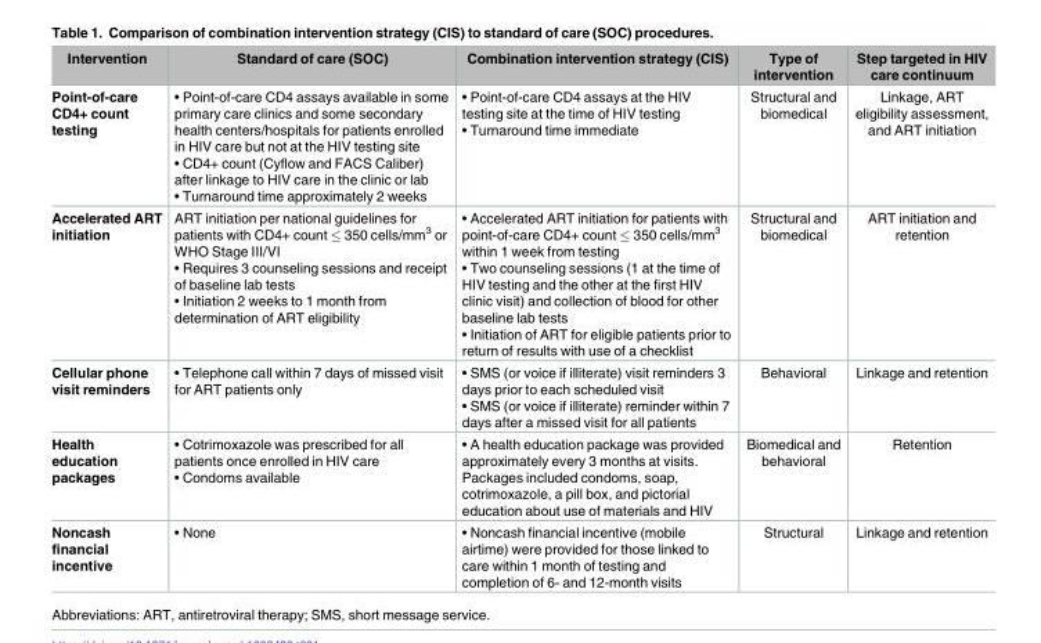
<table><thead><tr><td>Intervention</td><td>Standard of care (SOC)</td><td>Combination intervention strategy (CIS)</td><td>Type of intervention</td><td>Step targeted in HIV care continuum</td></tr></thead><tbody><tr><td>Point-of-care CD4+ count testing</td><td>• Point-of-care CD4 assays available in some primary care clinics and some secondary health centers/hospitals for patients enrolled in HIV care but not at the HIV testing site • CD4+ count (Cyflow and FACS Caliber) after linkage to HIV care in the clinic or lab • Turnaround time approximately 2 weeks</td><td>• Point-of-care CD4 assays at the HIV testing site at the time of HIV testing • Turnaround time immediate</td><td>Structural and biomedical</td><td>Linkage, ART eligibility assessment, and ART initiation</td></tr><tr><td>Accelerated ART initiation</td><td>ART initiation per national guidelines for patients with CD4+ count ≤ 350 cells/mm<sup>3</sup> or WHO Stage III/VI • Requires 3 counseling sessions and receipt of baseline lab tests • Initiation 2 weeks to 1 month from determination of ART eligibility</td><td>• Accelerated ART initiation for patients with point-of-care CD4+ count ≤ 350 cells/mm<sup>3</sup> within 1 week from testing • Two counseling sessions (1 at the time of HIV testing and the other at the first HIV clinic visit) and collection of blood for other baseline lab tests • Initiation of ART for eligible patients prior to return of results with use of a checklist</td><td>Structural and biomedical</td><td>ART initiation and retention</td></tr><tr><td>Cellular phone visit reminders</td><td>• Telephone call within 7 days of missed visit for ART patients only</td><td>• SMS (or voice if illiterate) visit reminders 3 days prior to each scheduled visit • SMS (or voice if illiterate) reminder within 7 days after a missed visit for all patients</td><td>Behavioral</td><td>Linkage and retention</td></tr><tr><td>Health education packages</td><td>• Cotrimoxazole was prescribed for all patients once enrolled in HIV care • Condoms available</td><td>• A health education package was provided approximately every 3 months at visits. Packages included condoms, soap, cotrimoxazole, a pill box, and pictorial education about use of materials and HIV</td><td>Biomedical and behavioral</td><td>Retention</td></tr><tr><td>Noncash financial incentive</td><td>• None</td><td>• Noncash financial incentive (mobile airtime) were provided for those linked to care within 1 month of testing and completion of 6- and 12-month visits</td><td>Structural</td><td>Linkage and retention</td></tr></tbody></table>